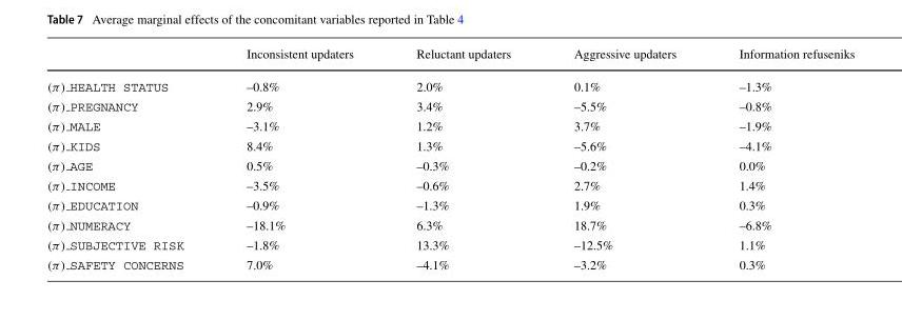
<table><thead><tr><td></td><td>Inconsistent updaters</td><td>Reluctant updaters</td><td>Aggressive updaters</td><td>Information refuseniks</td></tr></thead><tbody><tr><td>(π) HEALTH STATUS</td><td>–0.8%</td><td>2.0%</td><td>0.1%</td><td>–1.3%</td></tr><tr><td>(π) PREGNANCY</td><td>2.9%</td><td>3.4%</td><td>–5.5%</td><td>–0.8%</td></tr><tr><td>(π) MALE</td><td>–3.1%</td><td>1.2%</td><td>3.7%</td><td>–1.9%</td></tr><tr><td>(π) KIDS</td><td>8.4%</td><td>1.3%</td><td>–5.6%</td><td>–4.1%</td></tr><tr><td>(π) AGE</td><td>0.5%</td><td>–0.3%</td><td>–0.2%</td><td>0.0%</td></tr><tr><td>(π) INCOME</td><td>–3.5%</td><td>–0.6%</td><td>2.7%</td><td>1.4%</td></tr><tr><td>(π) EDUCATION</td><td>–0.9%</td><td>–1.3%</td><td>1.9%</td><td>0.3%</td></tr><tr><td>(π) NUMERACY</td><td>–18.1%</td><td>6.3%</td><td>18.7%</td><td>–6.8%</td></tr><tr><td>(π) SUBJECTIVE RISK</td><td>–1.8%</td><td>13.3%</td><td>–12.5%</td><td>1.1%</td></tr><tr><td>(π) SAFETY CONCERNS</td><td>7.0%</td><td>–4.1%</td><td>–3.2%</td><td>0.3%</td></tr></tbody></table>